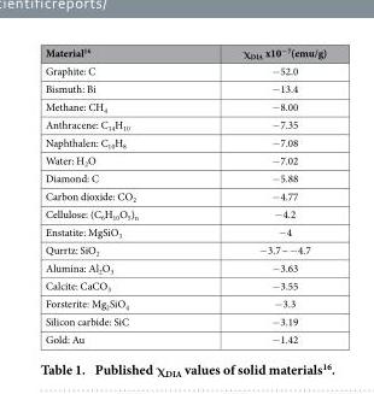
<table><thead><tr><td>Material<sup>16</sup></td><td>χ<sub>DIA</sub> x10<sup>−7</sup>(emu/g)</td></tr></thead><tbody><tr><td>Graphite: C</td><td>− 52.0</td></tr><tr><td>Bismuth: Bi</td><td>− 13.4</td></tr><tr><td>Methane: CH<sub>4</sub></td><td>− 8.00</td></tr><tr><td>Anthracene: C<sub>14</sub>H<sub>10</sub></td><td>− 7.35</td></tr><tr><td>Naphthalen: C<sub>10</sub>H<sub>8</sub></td><td>− 7.08</td></tr><tr><td>Water: H<sub>2</sub>O</td><td>− 7.02</td></tr><tr><td>Diamond: C</td><td>− 5.88</td></tr><tr><td>Carbon dioxide: CO<sub>2</sub></td><td>− 4.77</td></tr><tr><td>Cellulose: (C<sub>6</sub>H<sub>10</sub>O<sub>5</sub>)<sub>n</sub></td><td>− 4.2</td></tr><tr><td>Enstatite: MgSiO<sub>3</sub></td><td>− 4</td></tr><tr><td>Qurrtz: SiO<sub>2</sub></td><td>− 3.7 ~ − 4.7</td></tr><tr><td>Alumina: Al<sub>2</sub>O<sub>3</sub></td><td>− 3.63</td></tr><tr><td>Calcite: CaCO<sub>3</sub></td><td>− 3.55</td></tr><tr><td>Forsterite: Mg<sub>2</sub>SiO<sub>4</sub></td><td>− 3.3</td></tr><tr><td>Silicon carbide: SiC</td><td>− 3.19</td></tr><tr><td>Gold: Au</td><td>− 1.42</td></tr></tbody></table>